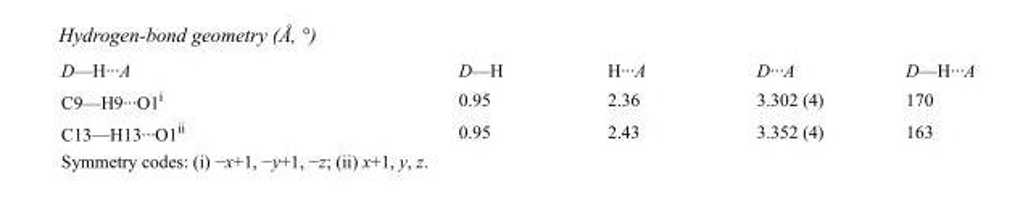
<table><tbody><tr><td>D—H···A</td><td>D—H</td><td>H···A</td><td>D···A</td><td>D—H···A</td></tr><tr><td>C9—H9···O1<sup>i</sup></td><td>0.95</td><td>2.36</td><td>3.302 (4)</td><td>170</td></tr><tr><td>C13—H13···O1<sup>ii</sup></td><td>0.95</td><td>2.43</td><td>3.352 (4)</td><td>163</td></tr></tbody></table>